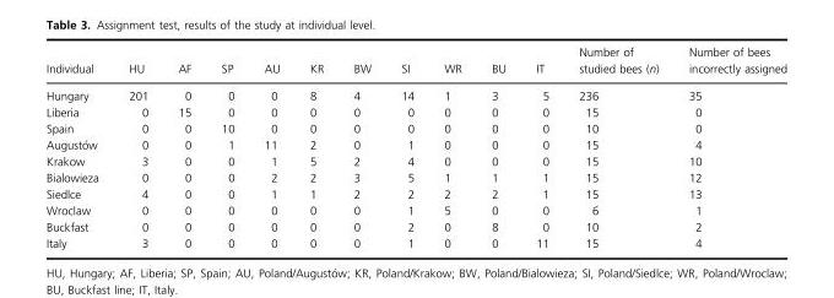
<table><thead><tr><td>Individual</td><td>HU</td><td>AF</td><td>SP</td><td>AU</td><td>KR</td><td>BW</td><td>SI</td><td>WR</td><td>BU</td><td>IT</td><td>Number of studied bees (n)</td><td>Number of bees incorrectly assigned</td></tr></thead><tbody><tr><td>Hungary</td><td>201</td><td>0</td><td>0</td><td>0</td><td>8</td><td>4</td><td>14</td><td>1</td><td>3</td><td>5</td><td>236</td><td>35</td></tr><tr><td>Liberia</td><td>0</td><td>15</td><td>0</td><td>0</td><td>0</td><td>0</td><td>0</td><td>0</td><td>0</td><td>0</td><td>15</td><td>0</td></tr><tr><td>Spain</td><td>0</td><td>0</td><td>10</td><td>0</td><td>0</td><td>0</td><td>0</td><td>0</td><td>0</td><td>0</td><td>10</td><td>0</td></tr><tr><td>August�ow</td><td>0</td><td>0</td><td>1</td><td>11</td><td>2</td><td>0</td><td>1</td><td>0</td><td>0</td><td>0</td><td>15</td><td>4</td></tr><tr><td>Krakow</td><td>3</td><td>0</td><td>0</td><td>1</td><td>5</td><td>2</td><td>4</td><td>0</td><td>0</td><td>0</td><td>15</td><td>10</td></tr><tr><td>Bialowieza</td><td>0</td><td>0</td><td>0</td><td>2</td><td>2</td><td>3</td><td>5</td><td>1</td><td>1</td><td>1</td><td>15</td><td>12</td></tr><tr><td>Siedlce</td><td>4</td><td>0</td><td>0</td><td>1</td><td>1</td><td>2</td><td>2</td><td>2</td><td>2</td><td>1</td><td>15</td><td>13</td></tr><tr><td>Wroclaw</td><td>0</td><td>0</td><td>0</td><td>0</td><td>0</td><td>0</td><td>1</td><td>5</td><td>0</td><td>0</td><td>6</td><td>1</td></tr><tr><td>Buckfast</td><td>0</td><td>0</td><td>0</td><td>0</td><td>0</td><td>0</td><td>2</td><td>0</td><td>8</td><td>0</td><td>10</td><td>2</td></tr><tr><td>Italy</td><td>3</td><td>0</td><td>0</td><td>0</td><td>0</td><td>0</td><td>1</td><td>0</td><td>0</td><td>11</td><td>15</td><td>4</td></tr></tbody></table>